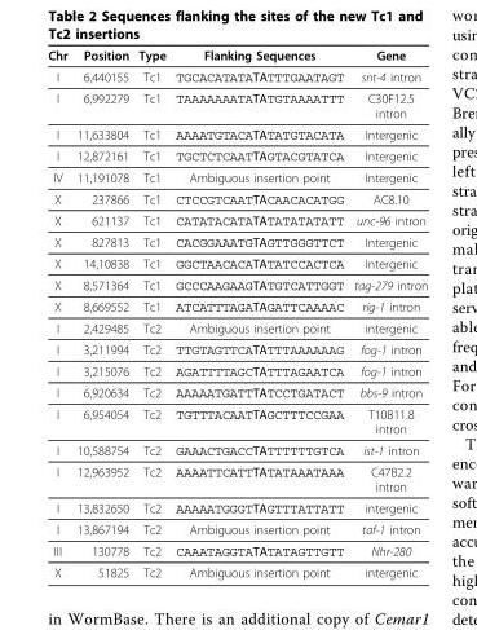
<table><thead><tr><td>Chr</td><td>Position</td><td>Type</td><td>Flanking Sequences</td><td>Gene</td></tr></thead><tbody><tr><td>I</td><td>6,440155</td><td>Tc1</td><td>TGCACATATATATTTGAATAGT</td><td>snt-4 intron</td></tr><tr><td>I</td><td>6,992279</td><td>Tc1</td><td>TAAAAAAATATATGTAAAATTT</td><td>C30F12.5 intron</td></tr><tr><td>I</td><td>11,633804</td><td>Tc1</td><td>AAAATGTACATATATGTACATA</td><td>Intergenic</td></tr><tr><td>I</td><td>12,872161</td><td>Tc1</td><td>TGCTCTCAATTAGTACGTATCA</td><td>Intergenic</td></tr><tr><td>IV</td><td>11,191078</td><td>Tc1</td><td>Ambiguous insertion point</td><td>Intergenic</td></tr><tr><td>X</td><td>237866</td><td>Tc1</td><td>CTCCGTCAATTACAACACATGG</td><td>AC8.10</td></tr><tr><td>X</td><td>621137</td><td>Tc1</td><td>CATATACATATATATATATATT</td><td>unc-96 intron</td></tr><tr><td>X</td><td>827813</td><td>Tc1</td><td>CACGGAAATGTAGTTGGGTTCT</td><td>Intergenic</td></tr><tr><td>X</td><td>14,10838</td><td>Tc1</td><td>GGCTAACACATATATCCACTCA</td><td>Intergenic</td></tr><tr><td>X</td><td>8,571364</td><td>Tc1</td><td>GCCCAAGAAGTATGTCATTGGT</td><td>tag-279 intron</td></tr><tr><td>X</td><td>8,669552</td><td>Tc1</td><td>ATCATTTAGATAGATTCAAAAC</td><td>rig-1 intron</td></tr><tr><td>I</td><td>2,429485</td><td>Tc2</td><td>Ambiguous insertion point</td><td>intergenic</td></tr><tr><td>I</td><td>3,211994</td><td>Tc2</td><td>TTGTAGTTCATATTTAAAAAAG</td><td>fog-1 intron</td></tr><tr><td>I</td><td>3,215076</td><td>Tc2</td><td>AGATTTTAGCTATTTAGAATCA</td><td>fog-1 intron</td></tr><tr><td>I</td><td>6,920634</td><td>Tc2</td><td>AAAAATGATTTATCCTGATACT</td><td>bbs-9 intron</td></tr><tr><td>I</td><td>6,954054</td><td>Tc2</td><td>TGTTTACAATTAGCTTTCCGAA</td><td>T10B11.8 intron</td></tr><tr><td>I</td><td>10,588754</td><td>Tc2</td><td>GAAACTGACCTATTTTTTGTCA</td><td>ist-1 intron</td></tr><tr><td>I</td><td>12,963952</td><td>Tc2</td><td>AAAATTCATTTATATAAATAAA</td><td>C47B2.2 intron</td></tr><tr><td>I</td><td>13,832650</td><td>Tc2</td><td>AAAAATGGGTTAGTTTATTATT</td><td>intergenic</td></tr><tr><td>I</td><td>13,867194</td><td>Tc2</td><td>Ambiguous insertion point</td><td>taf-1 intron</td></tr><tr><td>III</td><td>130778</td><td>Tc2</td><td>CAAATAGGTATATATAGTTGTT</td><td>Nhr-280</td></tr><tr><td>X</td><td>51825</td><td>Tc2</td><td>Ambiguous insertion point</td><td>intergenic</td></tr></tbody></table>